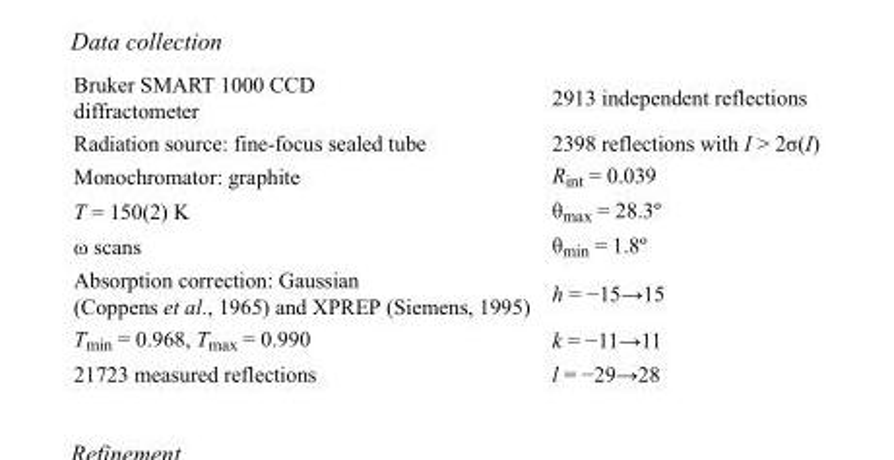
<table><tbody><tr><td>Bruker SMART 1000 CCD diffractometer</td><td>2913 independent reflections</td></tr><tr><td>Radiation source: fine-focus sealed tube</td><td>2398 reflections with I &gt; 2σ(I)</td></tr><tr><td>Monochromator: graphite</td><td>R<sub>int</sub> = 0.039</td></tr><tr><td>T = 150(2) K</td><td>θ<sub>max</sub> = 28.3º</td></tr><tr><td>ω scans</td><td>θ<sub>min</sub> = 1.8º</td></tr><tr><td>Absorption correction: Gaussian (Coppens et al., 1965) and XPREP (Siemens, 1995)</td><td>h = −15→15</td></tr><tr><td>T<sub>min</sub> = 0.968, T<sub>max</sub> = 0.990</td><td>k = −11→11</td></tr><tr><td>21723 measured reflections</td><td>l = −29→28</td></tr></tbody></table>